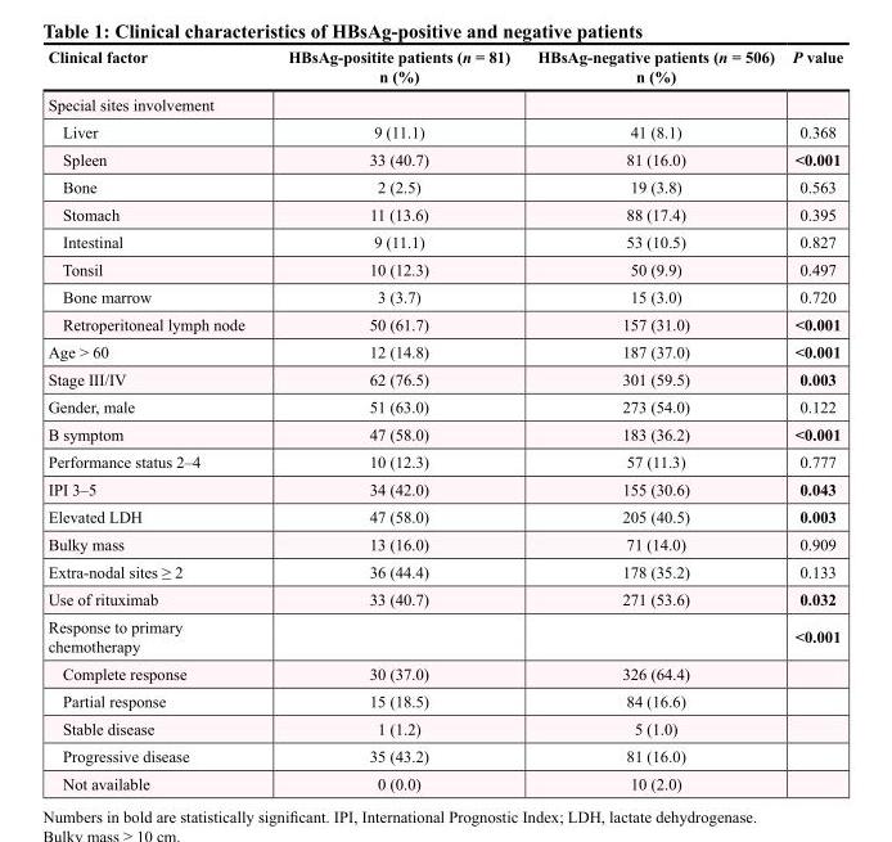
<table><thead><tr><td>Clinical factor</td><td>HBsAg-positite patients (n = 81) n (%)</td><td>HBsAg-negative patients (n = 506) n (%)</td><td>P value</td></tr></thead><tbody><tr><td colspan="4">Special sites involvement</td></tr><tr><td>Liver</td><td>9 (11.1)</td><td>41 (8.1)</td><td>0.368</td></tr><tr><td>Spleen</td><td>33 (40.7)</td><td>81 (16.0)</td><td>&lt;0.001</td></tr><tr><td>Bone</td><td>2 (2.5)</td><td>19 (3.8)</td><td>0.563</td></tr><tr><td>Stomach</td><td>11 (13.6)</td><td>88 (17.4)</td><td>0.395</td></tr><tr><td>Intestinal</td><td>9 (11.1)</td><td>53 (10.5)</td><td>0.827</td></tr><tr><td>Tonsil</td><td>10 (12.3)</td><td>50 (9.9)</td><td>0.497</td></tr><tr><td>Bone marrow</td><td>3 (3.7)</td><td>15 (3.0)</td><td>0.720</td></tr><tr><td>Retroperitoneal lymph node</td><td>50 (61.7)</td><td>157 (31.0)</td><td>&lt;0.001</td></tr><tr><td>Age &gt; 60</td><td>12 (14.8)</td><td>187 (37.0)</td><td>&lt;0.001</td></tr><tr><td>Stage III/IV</td><td>62 (76.5)</td><td>301 (59.5)</td><td>0.003</td></tr><tr><td>Gender, male</td><td>51 (63.0)</td><td>273 (54.0)</td><td>0.122</td></tr><tr><td>B symptom</td><td>47 (58.0)</td><td>183 (36.2)</td><td>&lt;0.001</td></tr><tr><td>Performance status 2–4</td><td>10 (12.3)</td><td>57 (11.3)</td><td>0.777</td></tr><tr><td>IPI 3–5</td><td>34 (42.0)</td><td>155 (30.6)</td><td>0.043</td></tr><tr><td>Elevated LDH</td><td>47 (58.0)</td><td>205 (40.5)</td><td>0.003</td></tr><tr><td>Bulky mass</td><td>13 (16.0)</td><td>71 (14.0)</td><td>0.909</td></tr><tr><td>Extra-nodal sites ≥ 2</td><td>36 (44.4)</td><td>178 (35.2)</td><td>0.133</td></tr><tr><td>Use of rituximab</td><td>33 (40.7)</td><td>271 (53.6)</td><td>0.032</td></tr><tr><td>Response to primary chemotherapy</td><td></td><td></td><td>&lt;0.001</td></tr><tr><td>Complete response</td><td>30 (37.0)</td><td>326 (64.4)</td><td></td></tr><tr><td>Partial response</td><td>15 (18.5)</td><td>84 (16.6)</td><td></td></tr><tr><td>Stable disease</td><td>1 (1.2)</td><td>5 (1.0)</td><td></td></tr><tr><td>Progressive disease</td><td>35 (43.2)</td><td>81 (16.0)</td><td></td></tr><tr><td>Not available</td><td>0 (0.0)</td><td>10 (2.0)</td><td></td></tr></tbody></table>